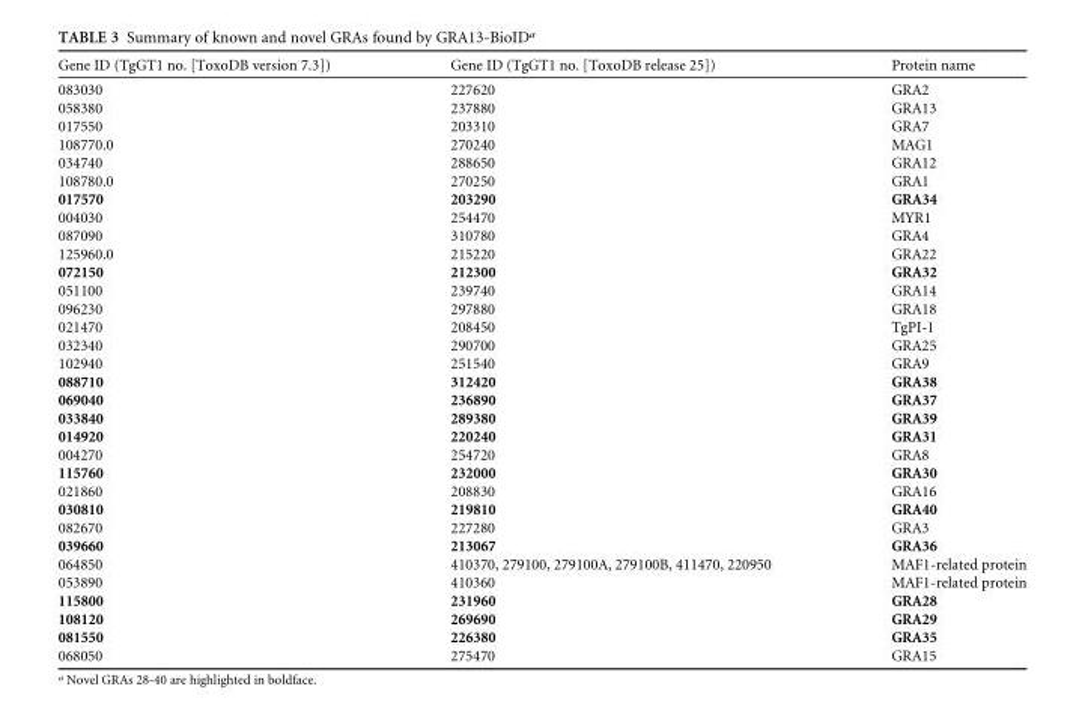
<table><thead><tr><td>Gene ID (TgGT1 no. [ToxoDB version 7.3])</td><td>Gene ID (TgGT1 no. [ToxoDB release 25])</td><td>Protein name</td></tr></thead><tbody><tr><td>083030</td><td>227620</td><td>GRA2</td></tr><tr><td>058380</td><td>237880</td><td>GRA13</td></tr><tr><td>017550</td><td>203310</td><td>GRA7</td></tr><tr><td>108770.0</td><td>270240</td><td>MAG1</td></tr><tr><td>034740</td><td>288650</td><td>GRA12</td></tr><tr><td>108780.0</td><td>270250</td><td>GRA1</td></tr><tr><td>017570</td><td>203290</td><td>GRA34</td></tr><tr><td>004030</td><td>254470</td><td>MYR1</td></tr><tr><td>087090</td><td>310780</td><td>GRA4</td></tr><tr><td>125960.0</td><td>215220</td><td>GRA22</td></tr><tr><td>072150</td><td>212300</td><td>GRA32</td></tr><tr><td>051100</td><td>239740</td><td>GRA14</td></tr><tr><td>096230</td><td>297880</td><td>GRA18</td></tr><tr><td>021470</td><td>208450</td><td>TgPI-1</td></tr><tr><td>032340</td><td>290700</td><td>GRA25</td></tr><tr><td>102940</td><td>251540</td><td>GRA9</td></tr><tr><td>088710</td><td>312420</td><td>GRA38</td></tr><tr><td>069040</td><td>236890</td><td>GRA37</td></tr><tr><td>033840</td><td>289380</td><td>GRA39</td></tr><tr><td>014920</td><td>220240</td><td>GRA31</td></tr><tr><td>004270</td><td>254720</td><td>GRA8</td></tr><tr><td>115760</td><td>232000</td><td>GRA30</td></tr><tr><td>021860</td><td>208830</td><td>GRA16</td></tr><tr><td>030810</td><td>219810</td><td>GRA40</td></tr><tr><td>082670</td><td>227280</td><td>GRA3</td></tr><tr><td>039660</td><td>213067</td><td>GRA36</td></tr><tr><td>064850</td><td>410370, 279100, 279100A, 279100B, 411470, 220950</td><td>MAF1-related protein</td></tr><tr><td>053890</td><td>410360</td><td>MAF1-related protein</td></tr><tr><td>115800</td><td>231960</td><td>GRA28</td></tr><tr><td>108120</td><td>269690</td><td>GRA29</td></tr><tr><td>081550</td><td>226380</td><td>GRA35</td></tr><tr><td>068050</td><td>275470</td><td>GRA15</td></tr></tbody></table>